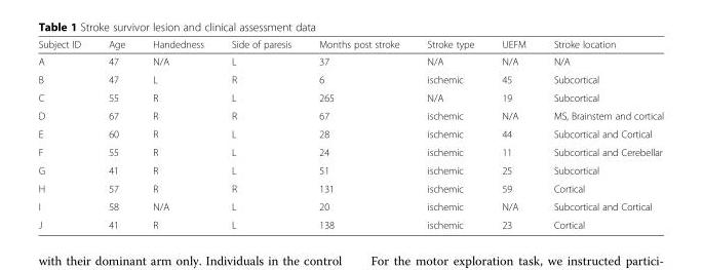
<table><thead><tr><td>Subject ID</td><td>Age</td><td>Handedness</td><td>Side of paresis</td><td>Months post stroke</td><td>Stroke type</td><td>UEFM</td><td>Stroke location</td></tr></thead><tbody><tr><td>A</td><td>47</td><td>N/A</td><td>L</td><td>37</td><td>N/A</td><td>N/A</td><td>N/A</td></tr><tr><td>B</td><td>47</td><td>L</td><td>R</td><td>6</td><td>ischemic</td><td>45</td><td>Subcortical</td></tr><tr><td>C</td><td>55</td><td>R</td><td>L</td><td>265</td><td>N/A</td><td>19</td><td>Subcortical</td></tr><tr><td>D</td><td>67</td><td>R</td><td>R</td><td>67</td><td>ischemic</td><td>N/A</td><td>MS, Brainstem and cortical</td></tr><tr><td>E</td><td>60</td><td>R</td><td>L</td><td>28</td><td>ischemic</td><td>44</td><td>Subcortical and Cortical</td></tr><tr><td>F</td><td>55</td><td>R</td><td>L</td><td>24</td><td>ischemic</td><td>11</td><td>Subcortical and Cerebellar</td></tr><tr><td>G</td><td>41</td><td>R</td><td>L</td><td>51</td><td>ischemic</td><td>25</td><td>Subcortical</td></tr><tr><td>H</td><td>57</td><td>R</td><td>R</td><td>131</td><td>ischemic</td><td>59</td><td>Cortical</td></tr><tr><td>I</td><td>58</td><td>N/A</td><td>L</td><td>20</td><td>ischemic</td><td>N/A</td><td>Subcortical and Cortical</td></tr><tr><td>J</td><td>41</td><td>R</td><td>L</td><td>138</td><td>ischemic</td><td>23</td><td>Cortical</td></tr></tbody></table>